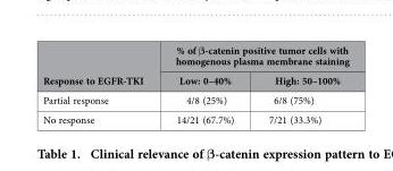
<table><thead><tr><td rowspan="2">Response to EGFR-TKI</td><td colspan="2">% of β-catenin positive tumor cells with homogenous plasma membrane staining</td></tr><tr><td>Low: 0–40%</td><td>High: 50–100%</td></tr></thead><tbody><tr><td>Partial response</td><td>4/8 (25%)</td><td>6/8 (75%)</td></tr><tr><td>No response</td><td>14/21 (67.7%)</td><td>7/21 (33.3%)</td></tr></tbody></table>